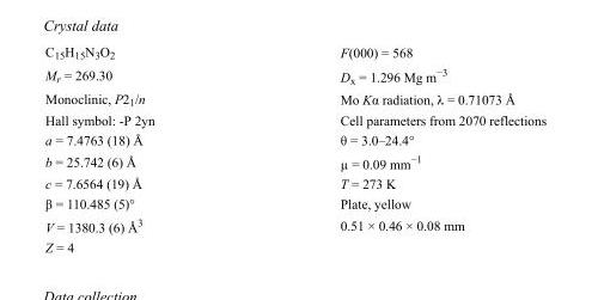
<table><tbody><tr><td>C<sub>15</sub>H<sub>15</sub>N<sub>3</sub>O<sub>2</sub></td><td>F(000) = 568</td></tr><tr><td>M<sub>r</sub> = 269.30</td><td>D<sub>x</sub> = 1.296 Mg m<sup>−3</sup></td></tr><tr><td>Monoclinic, P2<sub>1</sub>/n</td><td>Mo Kα radiation, λ = 0.71073 Å</td></tr><tr><td>Hall symbol: -P 2yn</td><td>Cell parameters from 2070 reflections</td></tr><tr><td>a = 7.4763 (18) Å</td><td>θ = 3.0–24.4°</td></tr><tr><td>b = 25.742 (6) Å</td><td>µ = 0.09 mm<sup>−1</sup></td></tr><tr><td>c = 7.6564 (19) Å</td><td>T = 273 K</td></tr><tr><td>β = 110.485 (5)°</td><td>Plate, yellow</td></tr><tr><td>V = 1380.3 (6) Å<sup>3</sup></td><td>0.51 × 0.46 × 0.08 mm</td></tr><tr><td>Z = 4</td><td></td></tr></tbody></table>